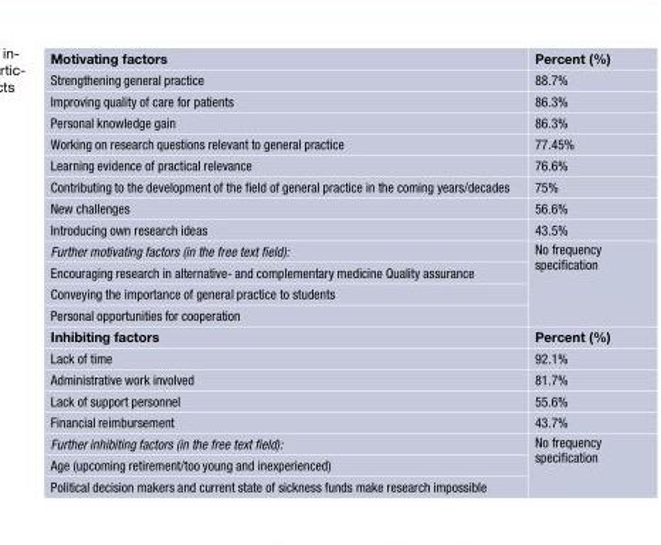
<table><tbody><tr><td>Motivating factors</td><td>Percent (%)</td></tr><tr><td>Strengthening general practice</td><td>88.7%</td></tr><tr><td>Improving quality of care for patients</td><td>86.3%</td></tr><tr><td>Personal knowledge gain</td><td>86.3%</td></tr><tr><td>Working on research questions relevant to general practice</td><td>77.45%</td></tr><tr><td>Learning evidence of practical relevance</td><td>76.6%</td></tr><tr><td>Contributing to the development of the field of general practice in the coming years/decades</td><td>75%</td></tr><tr><td>New challenges</td><td>56.6%</td></tr><tr><td>Introducing own research ideas</td><td>43.5%</td></tr><tr><td>Further motivating factors (in the free text field):</td><td rowspan="4">No frequency specification</td></tr><tr><td>Encouraging research in alternative- and complementary medicine Quality assurance</td></tr><tr><td>Conveying the importance of general practice to students</td></tr><tr><td>Personal opportunities for cooperation</td></tr><tr><td>Inhibiting factors</td><td>Percent (%)</td></tr><tr><td>Lack of time</td><td>92.1%</td></tr><tr><td>Administrative work involved</td><td>81.7%</td></tr><tr><td>Lack of support personnel</td><td>55.6%</td></tr><tr><td>Financial reimbursement</td><td>43.7%</td></tr><tr><td>Further inhibiting factors (in the free text field):</td><td rowspan="3">No frequency specification</td></tr><tr><td>Age (upcoming retirement/too young and inexperienced)</td></tr><tr><td>Political decision makers and current state of sickness funds make research impossible</td></tr></tbody></table>